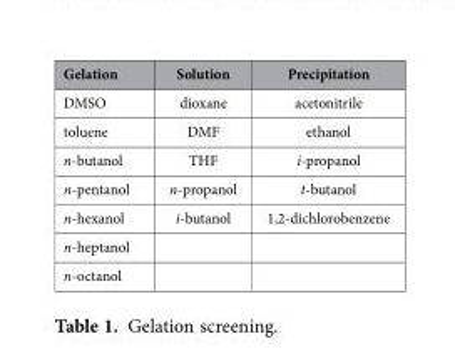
<table><thead><tr><td>Gelation</td><td>Solution</td><td>Precipitation</td></tr></thead><tbody><tr><td>DMSO</td><td>dioxane</td><td>acetonitrile</td></tr><tr><td>toluene</td><td>DMF</td><td>ethanol</td></tr><tr><td>n-butanol</td><td>THF</td><td>i-propanol</td></tr><tr><td>n-pentanol</td><td>n-propanol</td><td>t-butanol</td></tr><tr><td>n-hexanol</td><td>i-butanol</td><td>1,2-dichlorobenzene</td></tr><tr><td colspan="3">n-heptanol</td></tr><tr><td>n-octanol</td><td></td><td></td></tr></tbody></table>